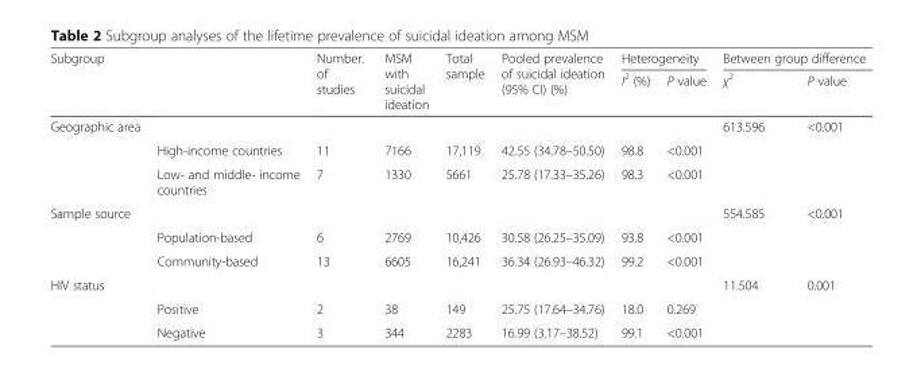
<table><thead><tr><td rowspan="2">Subgroup</td><td rowspan="2"></td><td rowspan="2">Number. of studies</td><td rowspan="2">MSM with suicidal ideation</td><td rowspan="2">Total sample</td><td rowspan="2">Pooled prevalence of suicidal ideation (95% CI) (%)</td><td colspan="2">Heterogeneity</td><td colspan="2">Between group difference</td></tr><tr><td>I<sup>2</sup> (%)</td><td>P value</td><td>χ<sup>2</sup></td><td>P value</td></tr></thead><tbody><tr><td rowspan="3">Geographic area</td><td></td><td></td><td></td><td></td><td></td><td></td><td></td><td>613.596</td><td>&lt;0.001</td></tr><tr><td>High-income countries</td><td>11</td><td>7166</td><td>17,119</td><td>42.55 (34.78–50.50)</td><td>98.8</td><td>&lt;0.001</td><td></td><td></td></tr><tr><td>Low- and middle- income countries</td><td>7</td><td>1330</td><td>5661</td><td>25.78 (17.33–35.26)</td><td>98.3</td><td>&lt;0.001</td><td></td><td></td></tr><tr><td rowspan="3">Sample source</td><td></td><td></td><td></td><td></td><td></td><td></td><td></td><td>554.585</td><td>&lt;0.001</td></tr><tr><td>Population-based</td><td>6</td><td>2769</td><td>10,426</td><td>30.58 (26.25–35.09)</td><td>93.8</td><td>&lt;0.001</td><td></td><td></td></tr><tr><td>Community-based</td><td>13</td><td>6605</td><td>16,241</td><td>36.34 (26.93–46.32)</td><td>99.2</td><td>&lt;0.001</td><td></td><td></td></tr><tr><td rowspan="3">HIV status</td><td></td><td></td><td></td><td></td><td></td><td></td><td></td><td>11.504</td><td>0.001</td></tr><tr><td>Positive</td><td>2</td><td>38</td><td>149</td><td>25.75 (17.64–34.76)</td><td>18.0</td><td>0.269</td><td></td><td></td></tr><tr><td>Negative</td><td>3</td><td>344</td><td>2283</td><td>16.99 (3.17–38.52)</td><td>99.1</td><td>&lt;0.001</td><td></td><td></td></tr></tbody></table>